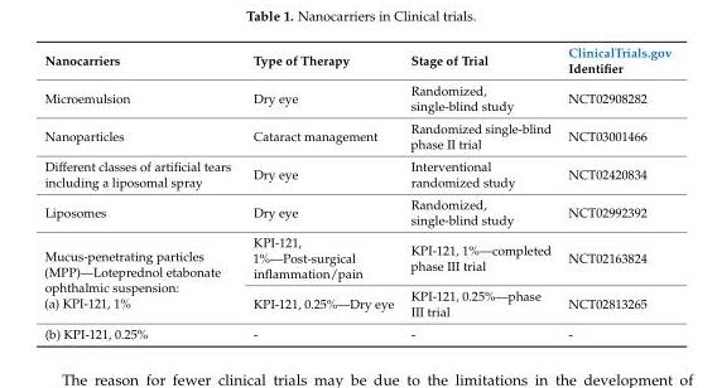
<table><thead><tr><td>Nanocarriers</td><td>Type of Therapy</td><td>Stage of Trial</td><td>ClinicalTrials.gov Identifier</td></tr></thead><tbody><tr><td>Microemulsion</td><td>Dry eye</td><td>Randomized, single-blind study</td><td>NCT02908282</td></tr><tr><td>Nanoparticles</td><td>Cataract management</td><td>Randomized single-blind phase II trial</td><td>NCT03001466</td></tr><tr><td>Different classes of artificial tears including a liposomal spray</td><td>Dry eye</td><td>Interventional randomized study</td><td>NCT02420834</td></tr><tr><td>Liposomes</td><td>Dry eye</td><td>Randomized, single-blind study</td><td>NCT02992392</td></tr><tr><td rowspan="2">Mucus-penetrating particles (MPP)—Loteprednol etabonate ophthalmic suspension: (a) KPI-121, 1%</td><td>KPI-121, 1%—Post-surgical inflammation/pain</td><td>KPI-121, 1%—completed phase III trial</td><td>NCT02163824</td></tr><tr><td>KPI-121, 0.25%—Dry eye</td><td>KPI-121, 0.25%—phase III trial</td><td>NCT02813265</td></tr><tr><td>(b) KPI-121, 0.25%</td><td>-</td><td>-</td><td>-</td></tr></tbody></table>